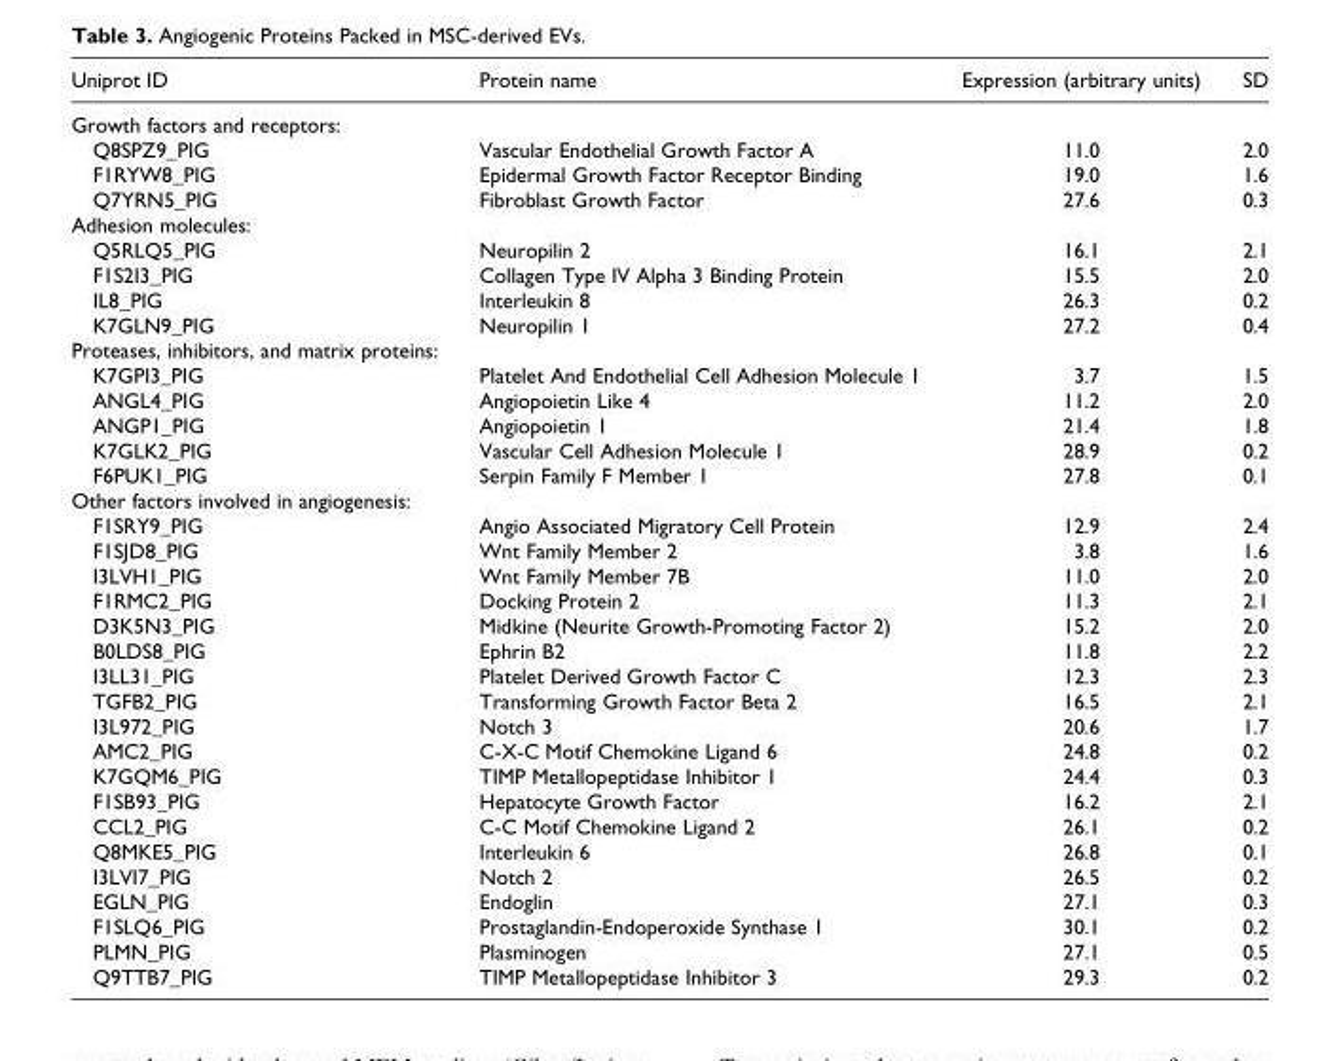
<table><thead><tr><td>Uniprot ID</td><td>Protein name</td><td>Expression (arbitrary units)</td><td>SD</td></tr></thead><tbody><tr><td colspan="4">Growth factors and receptors:</td></tr><tr><td>Q8SPZ9_PIG</td><td>Vascular Endothelial Growth Factor A</td><td>11.0</td><td>2.0</td></tr><tr><td>F1RYW8_PIG</td><td>Epidermal Growth Factor Receptor Binding</td><td>19.0</td><td>1.6</td></tr><tr><td>Q7YRN5_PIG</td><td>Fibroblast Growth Factor</td><td>27.6</td><td>0.3</td></tr><tr><td colspan="4">Adhesion molecules:</td></tr><tr><td>Q5RLQ5_PIG</td><td>Neuropilin 2</td><td>16.1</td><td>2.1</td></tr><tr><td>F1S2I3_PIG</td><td>Collagen Type IV Alpha 3 Binding Protein</td><td>15.5</td><td>2.0</td></tr><tr><td>IL8_PIG</td><td>Interleukin 8</td><td>26.3</td><td>0.2</td></tr><tr><td>K7GLN9_PIG</td><td>Neuropilin 1</td><td>27.2</td><td>0.4</td></tr><tr><td colspan="4">Proteases, inhibitors, and matrix proteins:</td></tr><tr><td>K7GPI3_PIG</td><td>Platelet And Endothelial Cell Adhesion Molecule 1</td><td>3.7</td><td>1.5</td></tr><tr><td>ANGL4_PIG</td><td>Angiopoietin Like 4</td><td>11.2</td><td>2.0</td></tr><tr><td>ANGP1_PIG</td><td>Angiopoietin 1</td><td>21.4</td><td>1.8</td></tr><tr><td>K7GLK2_PIG</td><td>Vascular Cell Adhesion Molecule 1</td><td>28.9</td><td>0.2</td></tr><tr><td>F6PUK1_PIG</td><td>Serpin Family F Member 1</td><td>27.8</td><td>0.1</td></tr><tr><td colspan="4">Other factors involved in angiogenesis:</td></tr><tr><td>F1SRY9_PIG</td><td>Angio Associated Migratory Cell Protein</td><td>12.9</td><td>2.4</td></tr><tr><td>F1SJD8_PIG</td><td>Wnt Family Member 2</td><td>3.8</td><td>1.6</td></tr><tr><td>I3LVH1_PIG</td><td>Wnt Family Member 7B</td><td>11.0</td><td>2.0</td></tr><tr><td>F1RMC2_PIG</td><td>Docking Protein 2</td><td>11.3</td><td>2.1</td></tr><tr><td>D3K5N3_PIG</td><td>Midkine (Neurite Growth-Promoting Factor 2)</td><td>15.2</td><td>2.0</td></tr><tr><td>B0LDS8_PIG</td><td>Ephrin B2</td><td>11.8</td><td>2.2</td></tr><tr><td>I3LL31_PIG</td><td>Platelet Derived Growth Factor C</td><td>12.3</td><td>2.3</td></tr><tr><td>TGFB2_PIG</td><td>Transforming Growth Factor Beta 2</td><td>16.5</td><td>2.1</td></tr><tr><td>I3L972_PIG</td><td>Notch 3</td><td>20.6</td><td>1.7</td></tr><tr><td>AMC2_PIG</td><td>C-X-C Motif Chemokine Ligand 6</td><td>24.8</td><td>0.2</td></tr><tr><td>K7GQM6_PIG</td><td>TIMP Metallopeptidase Inhibitor 1</td><td>24.4</td><td>0.3</td></tr><tr><td>F1SB93_PIG</td><td>Hepatocyte Growth Factor</td><td>16.2</td><td>2.1</td></tr><tr><td>CCL2_PIG</td><td>C-C Motif Chemokine Ligand 2</td><td>26.1</td><td>0.2</td></tr><tr><td>Q8MKE5_PIG</td><td>Interleukin 6</td><td>26.8</td><td>0.1</td></tr><tr><td>I3LVI7_PIG</td><td>Notch 2</td><td>26.5</td><td>0.2</td></tr><tr><td>EGLN_PIG</td><td>Endoglin</td><td>27.1</td><td>0.3</td></tr><tr><td>F1SLQ6_PIG</td><td>Prostaglandin-Endoperoxide Synthase 1</td><td>30.1</td><td>0.2</td></tr><tr><td>PLMN_PIG</td><td>Plasminogen</td><td>27.1</td><td>0.5</td></tr><tr><td>Q9TTB7_PIG</td><td>TIMP Metallopeptidase Inhibitor 3</td><td>29.3</td><td>0.2</td></tr></tbody></table>